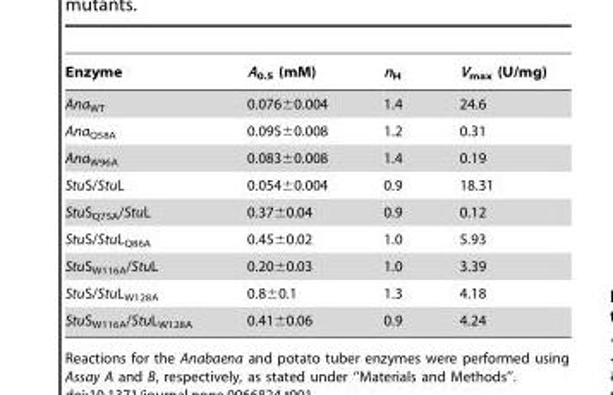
<table><thead><tr><td>Enzyme</td><td>A<sub>0.5</sub> (mM)</td><td>n<sub>H</sub></td><td>V<sub>max</sub> (U/mg)</td></tr></thead><tbody><tr><td>Ana<sub>WT</sub></td><td>0.076±0.004</td><td>1.4</td><td>24.6</td></tr><tr><td>Ana<sub>Q58A</sub></td><td>0.095±0.008</td><td>1.2</td><td>0.31</td></tr><tr><td>Ana<sub>W96A</sub></td><td>0.083±0.008</td><td>1.4</td><td>0.19</td></tr><tr><td>StuS/StuL</td><td>0.054±0.004</td><td>0.9</td><td>18.31</td></tr><tr><td>StuS<sub>Q75A</sub>/StuL</td><td>0.37±0.04</td><td>0.9</td><td>0.12</td></tr><tr><td>StuS/StuL<sub>Q86A</sub></td><td>0.45±0.02</td><td>1.0</td><td>5.93</td></tr><tr><td>StuS<sub>W116A</sub>/StuL</td><td>0.20±0.03</td><td>1.0</td><td>3.39</td></tr><tr><td>StuS/StuL<sub>W128A</sub></td><td>0.8±0.1</td><td>1.3</td><td>4.18</td></tr><tr><td>StuS<sub>W116A</sub>/StuL<sub>W128A</sub></td><td>0.41±0.06</td><td>0.9</td><td>4.24</td></tr></tbody></table>